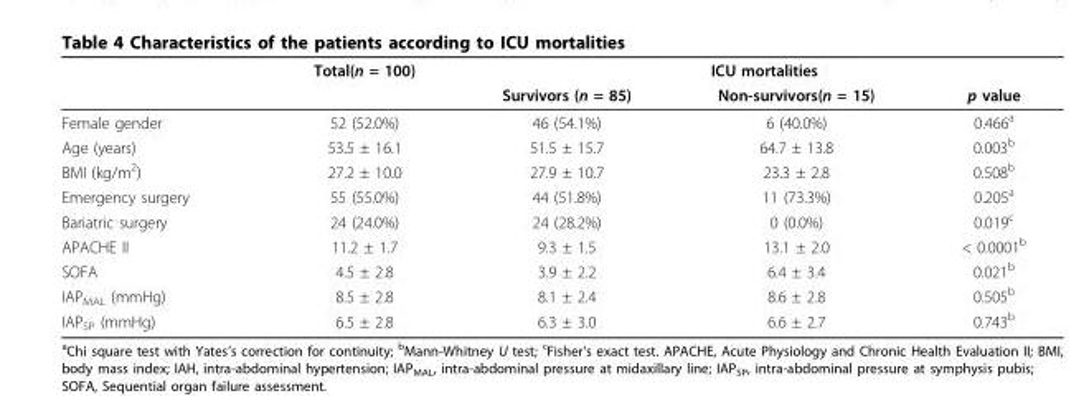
<table><thead><tr><td rowspan="2"></td><td rowspan="2">Total(n = 100)</td><td colspan="3">ICU mortalities</td></tr><tr><td>Survivors (n = 85)</td><td>Non-survivors(n = 15)</td><td>p value</td></tr></thead><tbody><tr><td>Female gender</td><td>52 (52.0%)</td><td>46 (54.1%)</td><td>6 (40.0%)</td><td>0.466<sup>a</sup></td></tr><tr><td>Age (years)</td><td>53.5 ± 16.1</td><td>51.5 ± 15.7</td><td>64.7 ± 13.8</td><td>0.003<sup>b</sup></td></tr><tr><td>BMI (kg/m<sup>2</sup>)</td><td>27.2 ± 10.0</td><td>27.9 ± 10.7</td><td>23.3 ± 2.8</td><td>0.508<sup>b</sup></td></tr><tr><td>Emergency surgery</td><td>55 (55.0%)</td><td>44 (51.8%)</td><td>11 (73.3%)</td><td>0.205<sup>a</sup></td></tr><tr><td>Bariatric surgery</td><td>24 (24.0%)</td><td>24 (28.2%)</td><td>0 (0.0%)</td><td>0.019<sup>c</sup></td></tr><tr><td>APACHE II</td><td>11.2 ± 1.7</td><td>9.3 ± 1.5</td><td>13.1 ± 2.0</td><td>&lt; 0.0001<sup>b</sup></td></tr><tr><td>SOFA</td><td>4.5 ± 2.8</td><td>3.9 ± 2.2</td><td>6.4 ± 3.4</td><td>0.021<sup>b</sup></td></tr><tr><td>IAP<sub>MAL</sub> (mmHg)</td><td>8.5 ± 2.8</td><td>8.1 ± 2.4</td><td>8.6 ± 2.8</td><td>0.505<sup>b</sup></td></tr><tr><td>IAP<sub>SP</sub> (mmHg)</td><td>6.5 ± 2.8</td><td>6.3 ± 3.0</td><td>6.6 ± 2.7</td><td>0.743<sup>b</sup></td></tr></tbody></table>